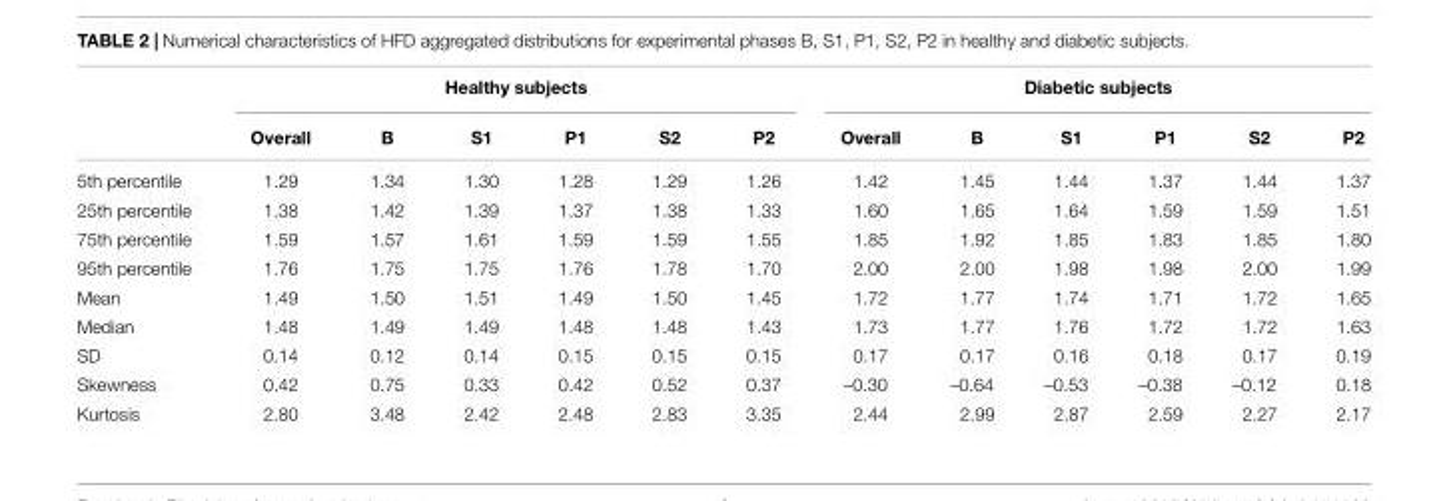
<table><thead><tr><td rowspan="2"></td><td colspan="6">Healthy subjects</td><td colspan="6">Diabetic subjects</td></tr><tr><td>Overall</td><td>B</td><td>S1</td><td>P1</td><td>S2</td><td>P2</td><td>Overall</td><td>B</td><td>S1</td><td>P1</td><td>S2</td><td>P2</td></tr></thead><tbody><tr><td>5th percentile</td><td>1.29</td><td>1.34</td><td>1.30</td><td>1.28</td><td>1.29</td><td>1.26</td><td>1.42</td><td>1.45</td><td>1.44</td><td>1.37</td><td>1.44</td><td>1.37</td></tr><tr><td>25th percentile</td><td>1.38</td><td>1.42</td><td>1.39</td><td>1.37</td><td>1.38</td><td>1.33</td><td>1.60</td><td>1.65</td><td>1.64</td><td>1.59</td><td>1.59</td><td>1.51</td></tr><tr><td>75th percentile</td><td>1.59</td><td>1.57</td><td>1.61</td><td>1.59</td><td>1.59</td><td>1.55</td><td>1.85</td><td>1.92</td><td>1.85</td><td>1.83</td><td>1.85</td><td>1.80</td></tr><tr><td>95th percentile</td><td>1.76</td><td>1.75</td><td>1.75</td><td>1.76</td><td>1.78</td><td>1.70</td><td>2.00</td><td>2.00</td><td>1.98</td><td>1.98</td><td>2.00</td><td>1.99</td></tr><tr><td>Mean</td><td>1.49</td><td>1.50</td><td>1.51</td><td>1.49</td><td>1.50</td><td>1.45</td><td>1.72</td><td>1.77</td><td>1.74</td><td>1.71</td><td>1.72</td><td>1.65</td></tr><tr><td>Median</td><td>1.48</td><td>1.49</td><td>1.49</td><td>1.48</td><td>1.48</td><td>1.43</td><td>1.73</td><td>1.77</td><td>1.76</td><td>1.72</td><td>1.72</td><td>1.63</td></tr><tr><td>SD</td><td>0.14</td><td>0.12</td><td>0.14</td><td>0.15</td><td>0.15</td><td>0.15</td><td>0.17</td><td>0.17</td><td>0.16</td><td>0.18</td><td>0.17</td><td>0.19</td></tr><tr><td>Skewness</td><td>0.42</td><td>0.75</td><td>0.33</td><td>0.42</td><td>0.52</td><td>0.37</td><td>–0.30</td><td>–0.64</td><td>–0.53</td><td>–0.38</td><td>–0.12</td><td>0.18</td></tr><tr><td>Kurtosis</td><td>2.80</td><td>3.48</td><td>2.42</td><td>2.48</td><td>2.83</td><td>3.35</td><td>2.44</td><td>2.99</td><td>2.87</td><td>2.59</td><td>2.27</td><td>2.17</td></tr></tbody></table>